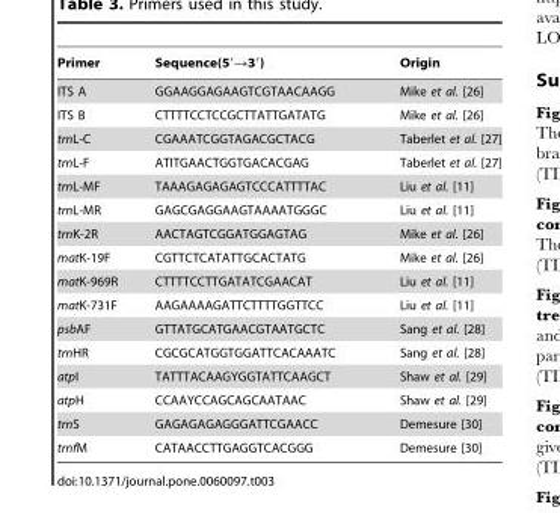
<table><thead><tr><td>Primer</td><td>Sequence(5′→3′)</td><td>Origin</td></tr></thead><tbody><tr><td>ITS A</td><td>GGAAGGAGAAGTCGTAACAAGG</td><td>Mike et al. [26]</td></tr><tr><td>ITS B</td><td>CTTTTCCTCCGCTTATTGATATG</td><td>Mike et al. [26]</td></tr><tr><td>trnL-C</td><td>CGAAATCGGTAGACGCTACG</td><td>Taberlet et al. [27]</td></tr><tr><td>trnL-F</td><td>ATITGAACTGGTGACACGAG</td><td>Taberlet et al. [27]</td></tr><tr><td>trnL-MF</td><td>TAAAGAGAGAGTCCCATTTTAC</td><td>Liu et al. [11]</td></tr><tr><td>trnL-MR</td><td>GAGCGAGGAAGTAAAATGGGC</td><td>Liu et al. [11]</td></tr><tr><td>trnK-2R</td><td>AACTAGTCGGATGGAGTAG</td><td>Mike et al. [26]</td></tr><tr><td>matK-19F</td><td>CGTTCTCATATTGCACTATG</td><td>Mike et al. [26]</td></tr><tr><td>matK-969R</td><td>CTTTTCCTTGATATCGAACAT</td><td>Liu et al. [11]</td></tr><tr><td>matK-731F</td><td>AAGAAAAGATTCTTTTGGTTCC</td><td>Liu et al. [11]</td></tr><tr><td>psbAF</td><td>GTTATGCATGAACGTAATGCTC</td><td>Sang et al. [28]</td></tr><tr><td>trnHR</td><td>CGCGCATGGTGGATTCACAAATC</td><td>Sang et al. [28]</td></tr><tr><td>atpI</td><td>TATTTACAAGYGGTATTCAAGCT</td><td>Shaw et al. [29]</td></tr><tr><td>atpH</td><td>CCAAYCCAGCAGCAATAAC</td><td>Shaw et al. [29]</td></tr><tr><td>trnS</td><td>GAGAGAGAGGGATTCGAACC</td><td>Demesure [30]</td></tr><tr><td>trnfM</td><td>CATAACCTTGAGGTCACGGG</td><td>Demesure [30]</td></tr></tbody></table>